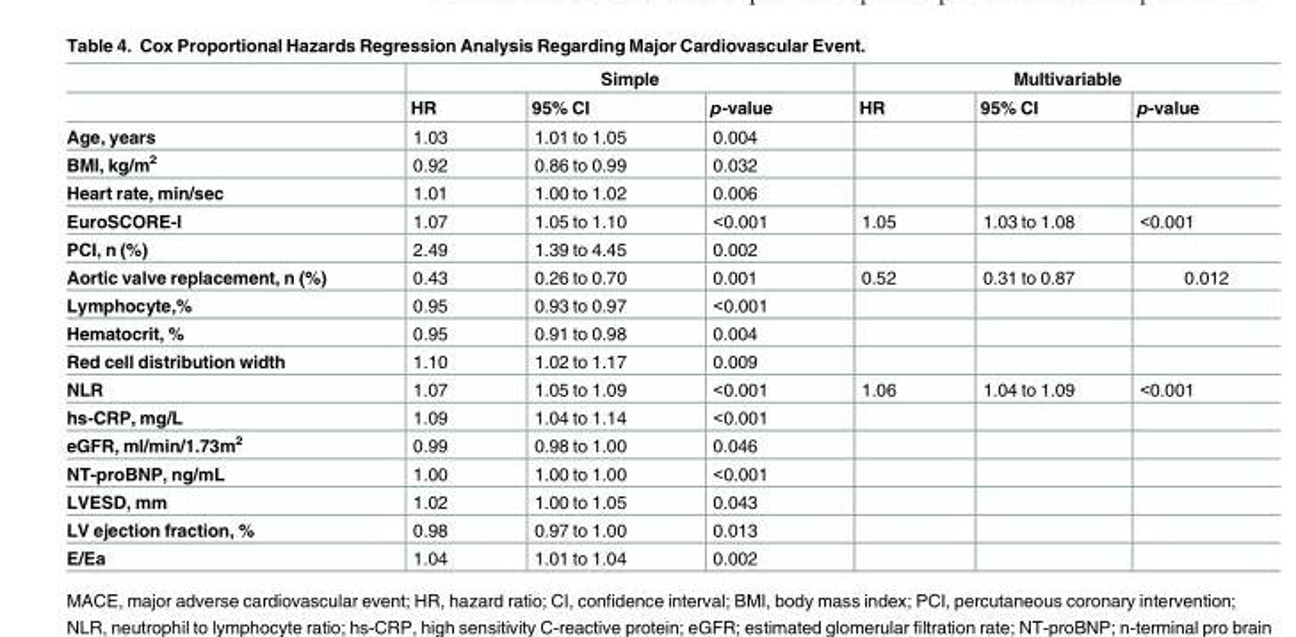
<table><thead><tr><td rowspan="2"></td><td colspan="3">Simple</td><td colspan="3">Multivariable</td></tr><tr><td>HR</td><td>95% CI</td><td>p-value</td><td>HR</td><td>95% CI</td><td>p-value</td></tr></thead><tbody><tr><td>Age, years</td><td>1.03</td><td>1.01 to 1.05</td><td>0.004</td><td></td><td></td><td></td></tr><tr><td>BMI, kg/m<sup>2</sup></td><td>0.92</td><td>0.86 to 0.99</td><td>0.032</td><td></td><td></td><td></td></tr><tr><td>Heart rate, min/sec</td><td>1.01</td><td>1.00 to 1.02</td><td>0.006</td><td></td><td></td><td></td></tr><tr><td>EuroSCORE-I</td><td>1.07</td><td>1.05 to 1.10</td><td>&lt;0.001</td><td>1.05</td><td>1.03 to 1.08</td><td>&lt;0.001</td></tr><tr><td>PCI, n (%)</td><td>2.49</td><td>1.39 to 4.45</td><td>0.002</td><td></td><td></td><td></td></tr><tr><td>Aortic valve replacement, n (%)</td><td>0.43</td><td>0.26 to 0.70</td><td>0.001</td><td>0.52</td><td>0.31 to 0.87</td><td>0.012</td></tr><tr><td>Lymphocyte,%</td><td>0.95</td><td>0.93 to 0.97</td><td>&lt;0.001</td><td></td><td></td><td></td></tr><tr><td>Hematocrit, %</td><td>0.95</td><td>0.91 to 0.98</td><td>0.004</td><td></td><td></td><td></td></tr><tr><td>Red cell distribution width</td><td>1.10</td><td>1.02 to 1.17</td><td>0.009</td><td></td><td></td><td></td></tr><tr><td>NLR</td><td>1.07</td><td>1.05 to 1.09</td><td>&lt;0.001</td><td>1.06</td><td>1.04 to 1.09</td><td>&lt;0.001</td></tr><tr><td>hs-CRP, mg/L</td><td>1.09</td><td>1.04 to 1.14</td><td>&lt;0.001</td><td></td><td></td><td></td></tr><tr><td>eGFR, ml/min/1.73m<sup>2</sup></td><td>0.99</td><td>0.98 to 1.00</td><td>0.046</td><td></td><td></td><td></td></tr><tr><td>NT-proBNP, ng/mL</td><td>1.00</td><td>1.00 to 1.00</td><td>&lt;0.001</td><td></td><td></td><td></td></tr><tr><td>LVESD, mm</td><td>1.02</td><td>1.00 to 1.05</td><td>0.043</td><td></td><td></td><td></td></tr><tr><td>LV ejection fraction, %</td><td>0.98</td><td>0.97 to 1.00</td><td>0.013</td><td></td><td></td><td></td></tr><tr><td>E/Ea</td><td>1.04</td><td>1.01 to 1.04</td><td>0.002</td><td></td><td></td><td></td></tr></tbody></table>